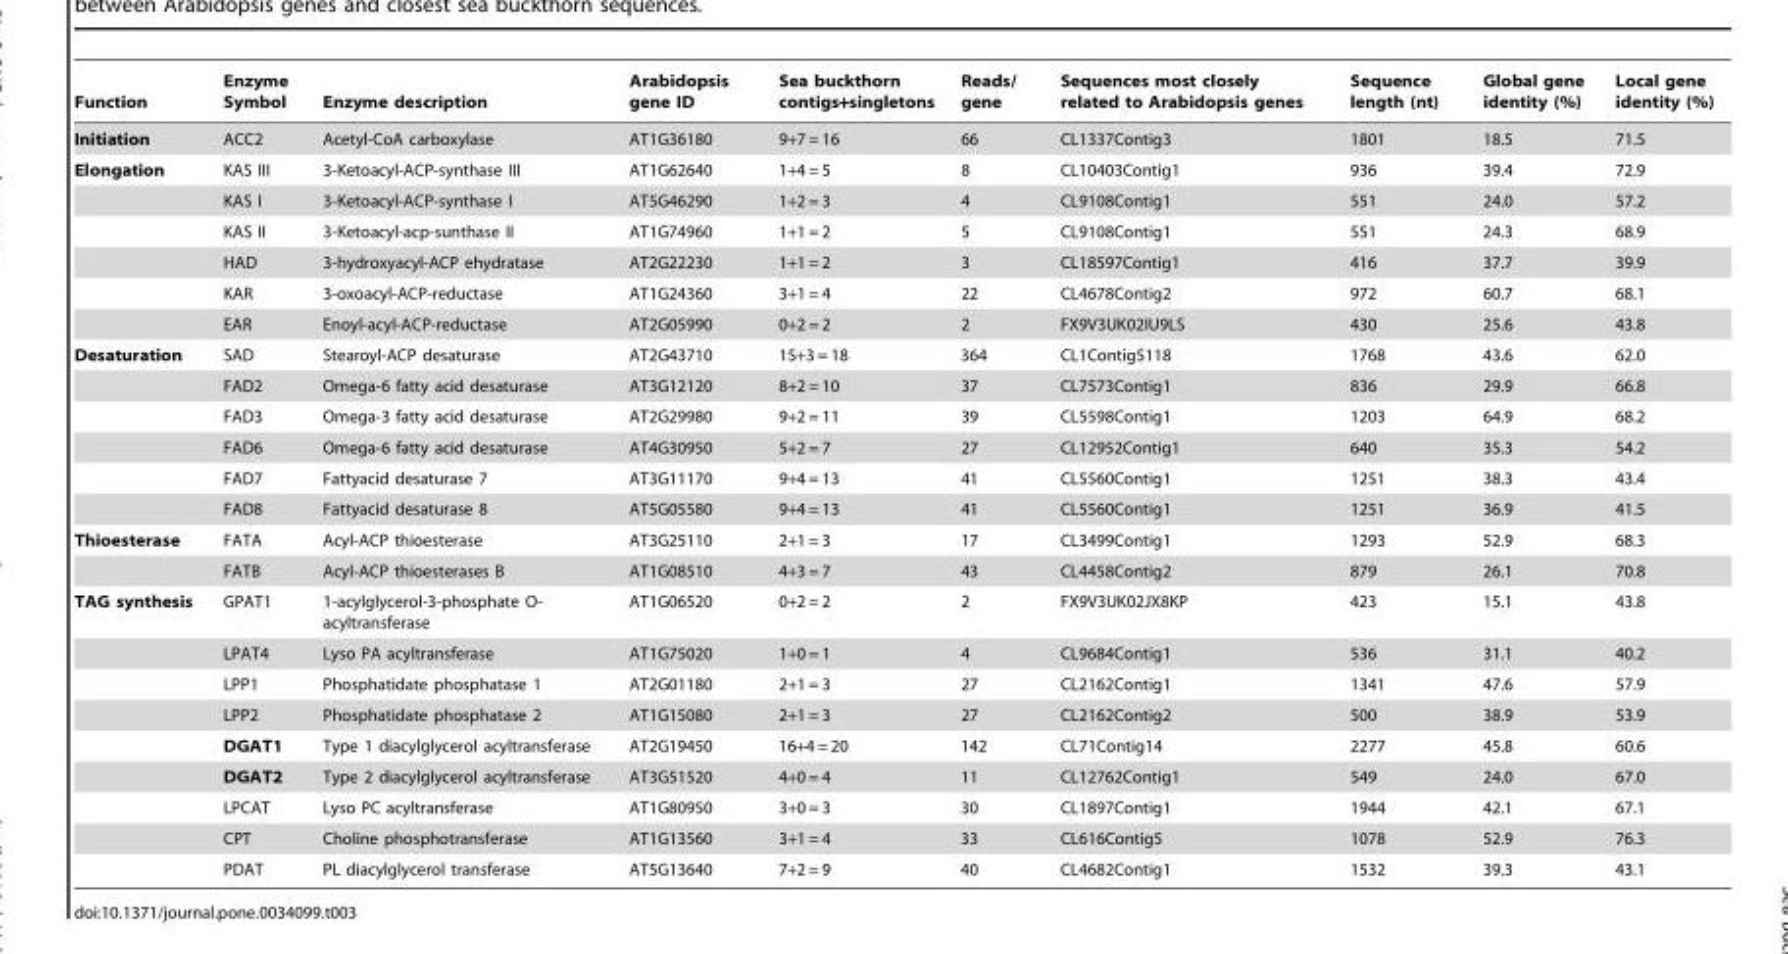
<table><thead><tr><td>Function</td><td>Enzyme Symbol</td><td>Enzyme description</td><td>Arabidopsis gene ID</td><td>Sea buckthorn contigs+singletons</td><td>Reads/ gene</td><td>Sequences most closely related to Arabidopsis genes</td><td>Sequence length (nt)</td><td>Global gene identity (%)</td><td>Local gene identity (%)</td></tr></thead><tbody><tr><td>Initiation</td><td>ACC2</td><td>Acetyl-CoA carboxylase</td><td>AT1G36180</td><td>9+7 = 16</td><td>66</td><td>CL1337Contig3</td><td>1801</td><td>18.5</td><td>71.5</td></tr><tr><td rowspan="6">Elongation</td><td>KAS III</td><td>3-Ketoacyl-ACP-synthase III</td><td>AT1G62640</td><td>1+4 = 5</td><td>8</td><td>CL10403Contig1</td><td>936</td><td>39.4</td><td>72.9</td></tr><tr><td>KAS I</td><td>3-Ketoacyl-ACP-synthase I</td><td>AT5G46290</td><td>1+2 = 3</td><td>4</td><td>CL9108Contig1</td><td>551</td><td>24.0</td><td>57.2</td></tr><tr><td>KAS II</td><td>3-Ketoacyl-acp-sunthase II</td><td>AT1G74960</td><td>1+1 = 2</td><td>5</td><td>CL9108Contig1</td><td>551</td><td>24.3</td><td>68.9</td></tr><tr><td>HAD</td><td>3-hydroxyacyl-ACP ehydratase</td><td>AT2G22230</td><td>1+1 = 2</td><td>3</td><td>CL18597Contig1</td><td>416</td><td>37.7</td><td>39.9</td></tr><tr><td>KAR</td><td>3-oxoacyl-ACP-reductase</td><td>AT1G24360</td><td>3+1 = 4</td><td>22</td><td>CL4678Contig2</td><td>972</td><td>60.7</td><td>68.1</td></tr><tr><td>EAR</td><td>Enoyl-acyl-ACP-reductase</td><td>AT2G05990</td><td>0+2 = 2</td><td>2</td><td>FX9V3UK02IU9LS</td><td>430</td><td>25.6</td><td>43.8</td></tr><tr><td rowspan="6">Desaturation</td><td>SAD</td><td>Stearoyl-ACP desaturase</td><td>AT2G43710</td><td>15+3 = 18</td><td>364</td><td>CL1Contig5118</td><td>1768</td><td>43.6</td><td>62.0</td></tr><tr><td>FAD2</td><td>Omega-6 fatty acid desaturase</td><td>AT3G12120</td><td>8+2 = 10</td><td>37</td><td>CL7573Contig1</td><td>836</td><td>29.9</td><td>66.8</td></tr><tr><td>FAD3</td><td>Omega-3 fatty acid desaturase</td><td>AT2G29980</td><td>9+2 = 11</td><td>39</td><td>CL5598Contig1</td><td>1203</td><td>64.9</td><td>68.2</td></tr><tr><td>FAD6</td><td>Omega-6 fatty acid desaturase</td><td>AT4G30950</td><td>5+2 = 7</td><td>27</td><td>CL12952Contig1</td><td>640</td><td>35.3</td><td>54.2</td></tr><tr><td>FAD7</td><td>Fattyacid desaturase 7</td><td>AT3G11170</td><td>9+4 = 13</td><td>41</td><td>CL5560Contig1</td><td>1251</td><td>38.3</td><td>43.4</td></tr><tr><td>FAD8</td><td>Fattyacid desaturase 8</td><td>AT5G05580</td><td>9+4 = 13</td><td>41</td><td>CL5560Contig1</td><td>1251</td><td>36.9</td><td>41.5</td></tr><tr><td rowspan="2">Thioesterase</td><td>FATA</td><td>Acyl-ACP thioesterase</td><td>AT3G25110</td><td>2+1 = 3</td><td>17</td><td>CL3499Contig1</td><td>1293</td><td>52.9</td><td>68.3</td></tr><tr><td>FATB</td><td>Acyl-ACP thioesterases B</td><td>AT1G08510</td><td>4+3 = 7</td><td>43</td><td>CL4458Contig2</td><td>879</td><td>26.1</td><td>70.8</td></tr><tr><td rowspan="9">TAG synthesis</td><td>GPAT1</td><td>1-acylglycerol-3-phosphate O- acyltransferase</td><td>AT1G06520</td><td>0+2 = 2</td><td>2</td><td>FX9V3UK02JX8KP</td><td>423</td><td>15.1</td><td>43.8</td></tr><tr><td>LPAT4</td><td>Lyso PA acyltransferase</td><td>AT1G75020</td><td>1+0 = 1</td><td>4</td><td>CL9684Contig1</td><td>536</td><td>31.1</td><td>40.2</td></tr><tr><td>LPP1</td><td>Phosphatidate phosphatase 1</td><td>AT2G01180</td><td>2+1 = 3</td><td>27</td><td>CL2162Contig1</td><td>1341</td><td>47.6</td><td>57.9</td></tr><tr><td>LPP2</td><td>Phosphatidate phosphatase 2</td><td>AT1G15080</td><td>2+1 = 3</td><td>27</td><td>CL2162Contig2</td><td>500</td><td>38.9</td><td>53.9</td></tr><tr><td>DGAT1</td><td>Type 1 diacylglycerol acyltransferase</td><td>AT2G19450</td><td>16+4 = 20</td><td>142</td><td>CL71Contig14</td><td>2277</td><td>45.8</td><td>60.6</td></tr><tr><td>DGAT2</td><td>Type 2 diacylglycerol acyltransferase</td><td>AT3G51520</td><td>4+0 = 4</td><td>11</td><td>CL12762Contig1</td><td>549</td><td>24.0</td><td>67.0</td></tr><tr><td>LPCAT</td><td>Lyso PC acyltransferase</td><td>AT1G80950</td><td>3+0 = 3</td><td>30</td><td>CL1897Contig1</td><td>1944</td><td>42.1</td><td>67.1</td></tr><tr><td>CPT</td><td>Choline phosphotransferase</td><td>AT1G13560</td><td>3+1 = 4</td><td>33</td><td>CL616Contig5</td><td>1078</td><td>52.9</td><td>76.3</td></tr><tr><td>PDAT</td><td>PL diacylglycerol transferase</td><td>AT5G13640</td><td>7+2 = 9</td><td>40</td><td>CL4682Contig1</td><td>1532</td><td>39.3</td><td>43.1</td></tr></tbody></table>